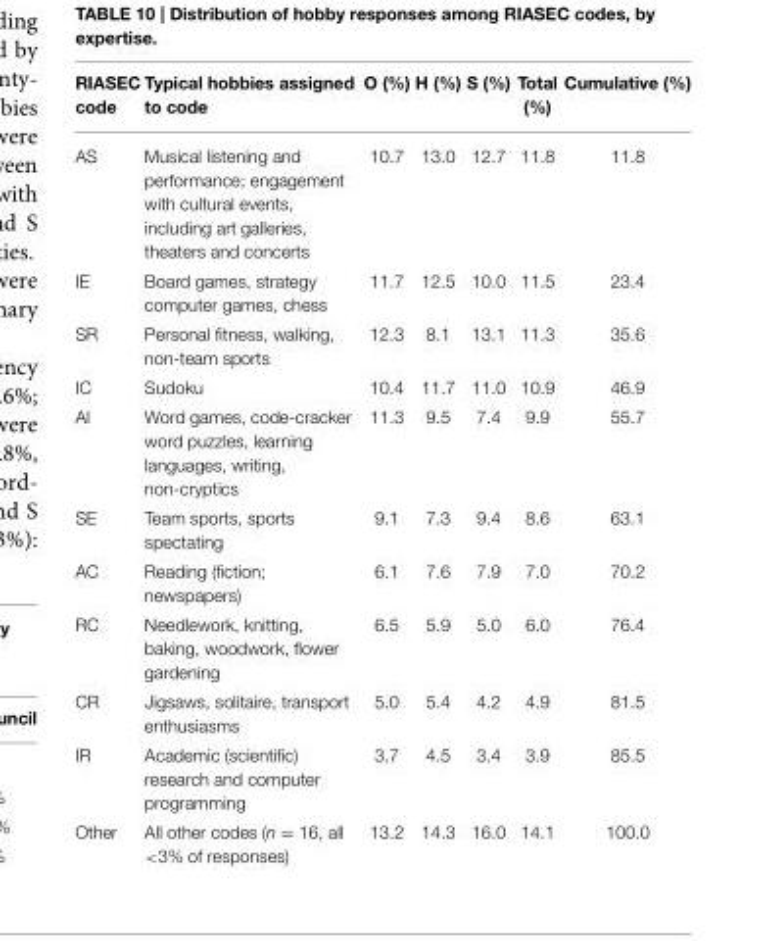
<table><thead><tr><td>RIASEC code</td><td>Typical hobbies assigned to code</td><td>O (%)</td><td>H (%)</td><td>S (%)</td><td>Total (%)</td><td>Cumulative (%)</td></tr></thead><tbody><tr><td>AS</td><td>Musical listening and performance; engagement with cultural events, including art galleries, theaters and concerts</td><td>10.7</td><td>13.0</td><td>12.7</td><td>11.8</td><td>11.8</td></tr><tr><td>IE</td><td>Board games, strategy computer games, chess</td><td>11.7</td><td>12.5</td><td>10.0</td><td>11.5</td><td>23.4</td></tr><tr><td>SR</td><td>Personal fitness, walking, non-team sports</td><td>12.3</td><td>8.1</td><td>13.1</td><td>11.3</td><td>35.6</td></tr><tr><td>IC</td><td>Sudoku</td><td>10.4</td><td>11.7</td><td>11.0</td><td>10.9</td><td>46.9</td></tr><tr><td>AI</td><td>Word games, code-cracker word puzzles, learning languages, writing, non-cryptics</td><td>11.3</td><td>9.5</td><td>7.4</td><td>9.9</td><td>55.7</td></tr><tr><td>SE</td><td>Team sports, sports spectating</td><td>9.1</td><td>7.3</td><td>9.4</td><td>8.6</td><td>63.1</td></tr><tr><td>AC</td><td>Reading (fiction; newspapers)</td><td>6.1</td><td>7.6</td><td>7.9</td><td>7.0</td><td>70.2</td></tr><tr><td>RC</td><td>Needlework, knitting, baking, woodwork, flower gardening</td><td>6.5</td><td>5.9</td><td>5.0</td><td>6.0</td><td>76.4</td></tr><tr><td>CR</td><td>Jigsaws, solitaire, transport enthusiasms</td><td>5.0</td><td>5.4</td><td>4.2</td><td>4.9</td><td>81.5</td></tr><tr><td>IR</td><td>Academic (scientific) research and computer programming</td><td>3.7</td><td>4.5</td><td>3.4</td><td>3.9</td><td>85.5</td></tr><tr><td>Other</td><td>All other codes (n = 16, all &lt;3% of responses)</td><td>13.2</td><td>14.3</td><td>16.0</td><td>14.1</td><td>100.0</td></tr></tbody></table>